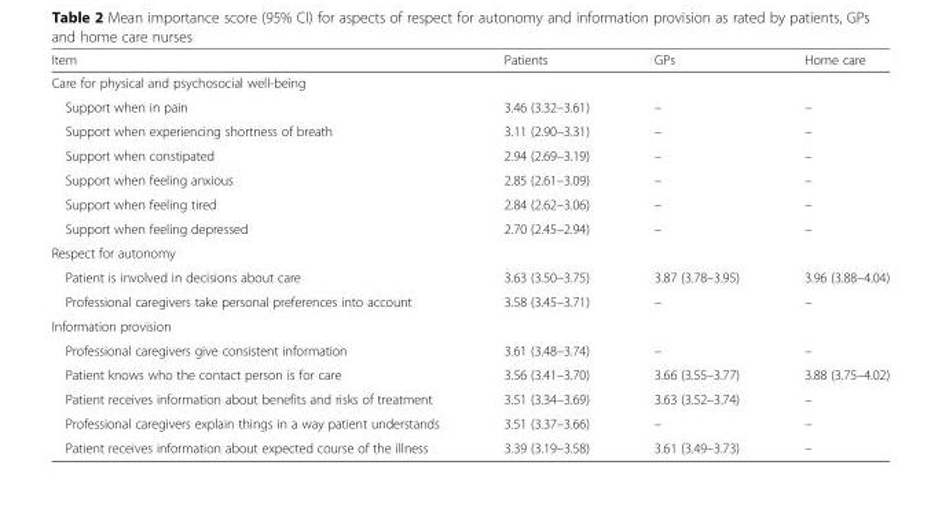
<table><thead><tr><td>Item</td><td>Patients</td><td>GPs</td><td>Home care</td></tr></thead><tbody><tr><td colspan="4">Care for physical and psychosocial well-being</td></tr><tr><td>Support when in pain</td><td>3.46 (3.32–3.61)</td><td>–</td><td>–</td></tr><tr><td>Support when experiencing shortness of breath</td><td>3.11 (2.90–3.31)</td><td>–</td><td>–</td></tr><tr><td>Support when constipated</td><td>2.94 (2.69–3.19)</td><td>–</td><td>–</td></tr><tr><td>Support when feeling anxious</td><td>2.85 (2.61–3.09)</td><td>–</td><td>–</td></tr><tr><td>Support when feeling tired</td><td>2.84 (2.62–3.06)</td><td>–</td><td>–</td></tr><tr><td>Support when feeling depressed</td><td>2.70 (2.45–2.94)</td><td>–</td><td>–</td></tr><tr><td colspan="4">Respect for autonomy</td></tr><tr><td>Patient is involved in decisions about care</td><td>3.63 (3.50–3.75)</td><td>3.87 (3.78–3.95)</td><td>3.96 (3.88–4.04)</td></tr><tr><td>Professional caregivers take personal preferences into account</td><td>3.58 (3.45–3.71)</td><td>–</td><td>–</td></tr><tr><td colspan="4">Information provision</td></tr><tr><td>Professional caregivers give consistent information</td><td>3.61 (3.48–3.74)</td><td>–</td><td>–</td></tr><tr><td>Patient knows who the contact person is for care</td><td>3.56 (3.41–3.70)</td><td>3.66 (3.55–3.77)</td><td>3.88 (3.75–4.02)</td></tr><tr><td>Patient receives information about benefits and risks of treatment</td><td>3.51 (3.34–3.69)</td><td>3.63 (3.52–3.74)</td><td>–</td></tr><tr><td>Professional caregivers explain things in a way patient understands</td><td>3.51 (3.37–3.66)</td><td>–</td><td>–</td></tr><tr><td>Patient receives information about expected course of the illness</td><td>3.39 (3.19–3.58)</td><td>3.61 (3.49–3.73)</td><td>–</td></tr></tbody></table>